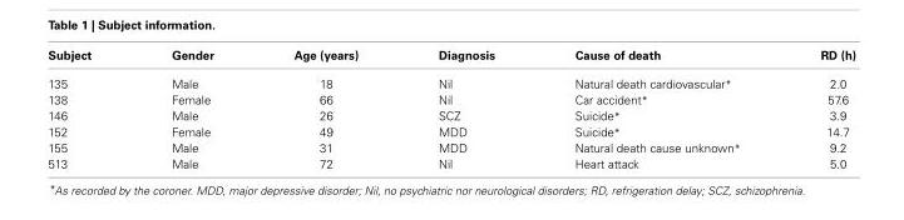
<table><thead><tr><td>Subject</td><td>Gender</td><td>Age (years)</td><td>Diagnosis</td><td>Cause of death</td><td>RD (h)</td></tr></thead><tbody><tr><td>135</td><td>Male</td><td>18</td><td>Nil</td><td>Natural death cardiovascular*</td><td>2.0</td></tr><tr><td>138</td><td>Female</td><td>66</td><td>Nil</td><td>Car accident*</td><td>57.6</td></tr><tr><td>146</td><td>Male</td><td>26</td><td>SCZ</td><td>Suicide*</td><td>3.9</td></tr><tr><td>152</td><td>Female</td><td>49</td><td>MDD</td><td>Suicide*</td><td>14.7</td></tr><tr><td>155</td><td>Male</td><td>31</td><td>MDD</td><td>Natural death cause unknown*</td><td>9.2</td></tr><tr><td>513</td><td>Male</td><td>72</td><td>Nil</td><td>Heart attack</td><td>5.0</td></tr></tbody></table>